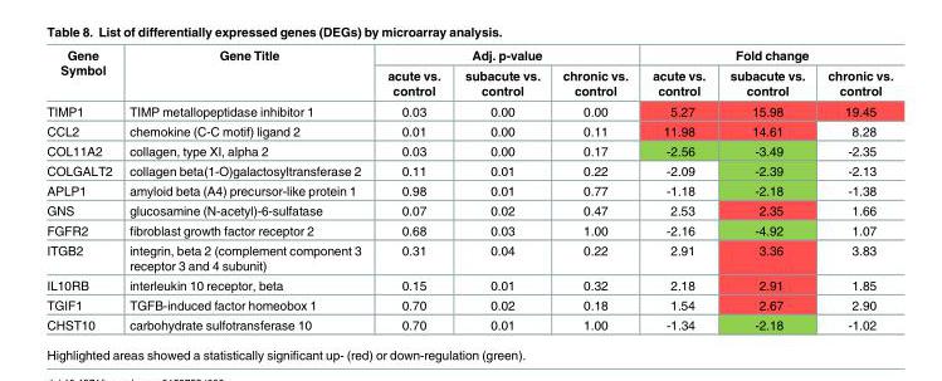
<table><thead><tr><td rowspan="2">Gene Symbol</td><td rowspan="2">Gene Title</td><td colspan="3">Adj. p-value</td><td colspan="3">Fold change</td></tr><tr><td>acute vs. control</td><td>subacute vs. control</td><td>chronic vs. control</td><td>acute vs. control</td><td>subacute vs. control</td><td>chronic vs. control</td></tr></thead><tbody><tr><td>TIMP1</td><td>TIMP metallopeptidase inhibitor 1</td><td>0.03</td><td>0.00</td><td>0.00</td><td>5.27</td><td>15.98</td><td>19.45</td></tr><tr><td>CCL2</td><td>chemokine (C-C motif) ligand 2</td><td>0.01</td><td>0.00</td><td>0.11</td><td>11.98</td><td>14.61</td><td>8.28</td></tr><tr><td>COL11A2</td><td>collagen, type XI, alpha 2</td><td>0.03</td><td>0.00</td><td>0.17</td><td>-2.56</td><td>-3.49</td><td>-2.35</td></tr><tr><td>COLGALT2</td><td>collagen beta(1-O)galactosyltransferase 2</td><td>0.11</td><td>0.01</td><td>0.22</td><td>-2.09</td><td>-2.39</td><td>-2.13</td></tr><tr><td>APLP1</td><td>amyloid beta (A4) precursor-like protein 1</td><td>0.98</td><td>0.01</td><td>0.77</td><td>-1.18</td><td>-2.18</td><td>-1.38</td></tr><tr><td>GNS</td><td>glucosamine (N-acetyl)-6-sulfatase</td><td>0.07</td><td>0.02</td><td>0.47</td><td>2.53</td><td>2.35</td><td>1.66</td></tr><tr><td>FGFR2</td><td>fibroblast growth factor receptor 2</td><td>0.68</td><td>0.03</td><td>1.00</td><td>-2.16</td><td>-4.92</td><td>1.07</td></tr><tr><td>ITGB2</td><td>integrin, beta 2 (complement component 3 receptor 3 and 4 subunit)</td><td>0.31</td><td>0.04</td><td>0.22</td><td>2.91</td><td>3.36</td><td>3.83</td></tr><tr><td>IL10RB</td><td>interleukin 10 receptor, beta</td><td>0.15</td><td>0.01</td><td>0.32</td><td>2.18</td><td>2.91</td><td>1.85</td></tr><tr><td>TGIF1</td><td>TGFB-induced factor homeobox 1</td><td>0.70</td><td>0.02</td><td>0.18</td><td>1.54</td><td>2.67</td><td>2.90</td></tr><tr><td>CHST10</td><td>carbohydrate sulfotransferase 10</td><td>0.70</td><td>0.01</td><td>1.00</td><td>-1.34</td><td>-2.18</td><td>-1.02</td></tr></tbody></table>